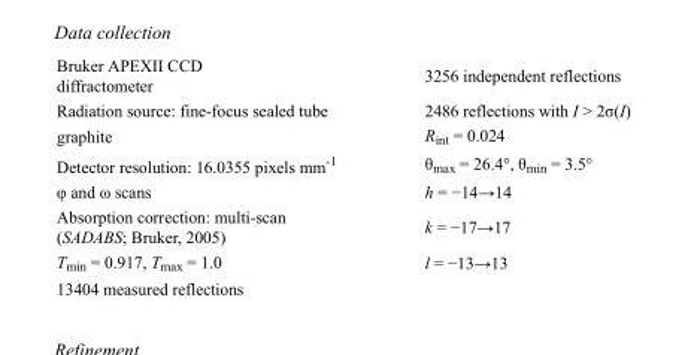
<table><tbody><tr><td>Bruker APEXII CCD diffractometer</td><td>3256 independent reflections</td></tr><tr><td>Radiation source: fine-focus sealed tube</td><td>2486 reflections with I &gt; 2σ(I)</td></tr><tr><td>graphite</td><td>R<sub>int</sub> = 0.024</td></tr><tr><td>Detector resolution: 16.0355 pixels mm<sup>-1</sup></td><td>θ<sub>max</sub> = 26.4°, θ<sub>min</sub> = 3.5°</td></tr><tr><td>φ and ω scans</td><td>h = −14→14</td></tr><tr><td>Absorption correction: multi-scan (SADABS; Bruker, 2005)</td><td>k = −17→17</td></tr><tr><td>T<sub>min</sub> = 0.917, T<sub>max</sub> = 1.0</td><td>l = −13→13</td></tr><tr><td>13404 measured reflections</td><td></td></tr></tbody></table>